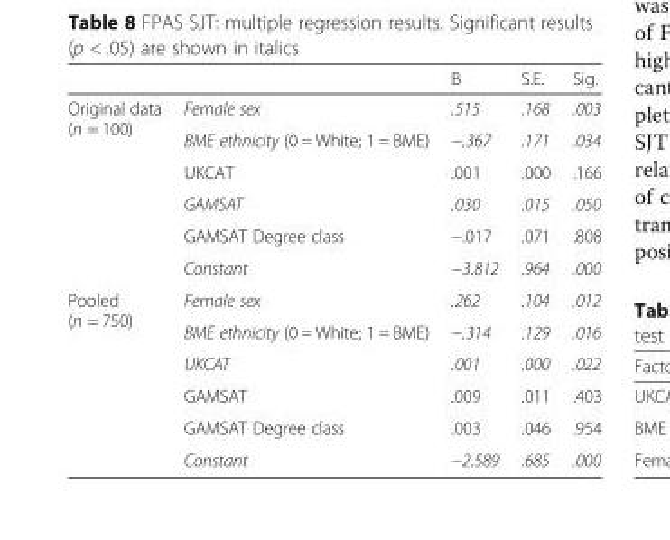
<table><thead><tr><td></td><td></td><td>B</td><td>S.E.</td><td>Sig.</td></tr></thead><tbody><tr><td rowspan="6">Original data (n = 100)</td><td>Female sex</td><td>.515</td><td>.168</td><td>.003</td></tr><tr><td>BME ethnicity (0 = White; 1 = BME)</td><td>−.367</td><td>.171</td><td>.034</td></tr><tr><td>UKCAT</td><td>.001</td><td>.000</td><td>.166</td></tr><tr><td>GAMSAT</td><td>.030</td><td>.015</td><td>.050</td></tr><tr><td>GAMSAT Degree class</td><td>−.017</td><td>.071</td><td>.808</td></tr><tr><td>Constant</td><td>−3.812</td><td>.964</td><td>.000</td></tr><tr><td rowspan="6">Pooled (n = 750)</td><td>Female sex</td><td>.262</td><td>.104</td><td>.012</td></tr><tr><td>BME ethnicity (0 = White; 1 = BME)</td><td>−.314</td><td>.129</td><td>.016</td></tr><tr><td>UKCAT</td><td>.001</td><td>.000</td><td>.022</td></tr><tr><td>GAMSAT</td><td>.009</td><td>.011</td><td>.403</td></tr><tr><td>GAMSAT Degree class</td><td>.003</td><td>.046</td><td>.954</td></tr><tr><td>Constant</td><td>−2.589</td><td>.685</td><td>.000</td></tr></tbody></table>